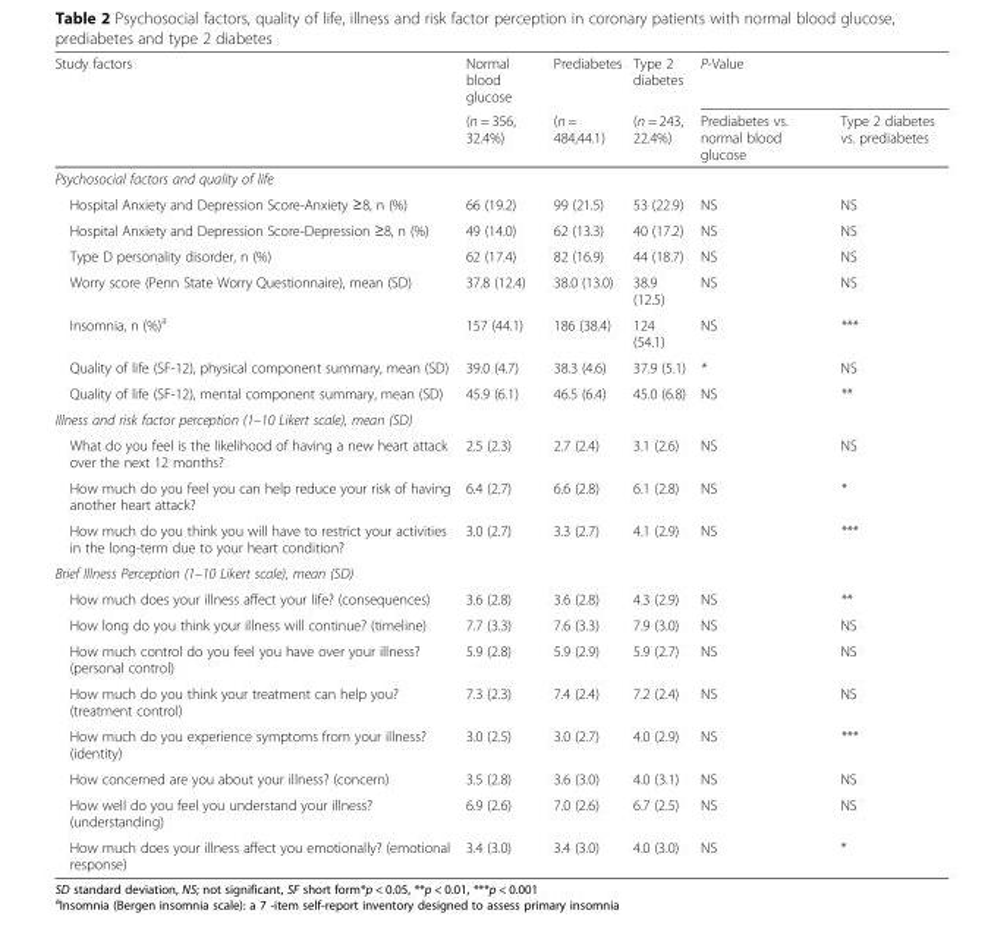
<table><thead><tr><td rowspan="2">Study factors</td><td rowspan="2">Normal blood glucose (n = 356, 32.4%)</td><td rowspan="2">Prediabetes (n = 484,44.1)</td><td rowspan="2">Type 2 diabetes (n = 243, 22.4%)</td><td colspan="2">P-Value</td></tr><tr><td>Prediabetes vs. normal blood glucose</td><td>Type 2 diabetes vs. prediabetes</td></tr></thead><tbody><tr><td colspan="6">Psychosocial factors and quality of life</td></tr><tr><td>Hospital Anxiety and Depression Score-Anxiety ≥8, n (%)</td><td>66 (19.2)</td><td>99 (21.5)</td><td>53 (22.9)</td><td>NS</td><td>NS</td></tr><tr><td>Hospital Anxiety and Depression Score-Depression ≥8, n (%)</td><td>49 (14.0)</td><td>62 (13.3)</td><td>40 (17.2)</td><td>NS</td><td>NS</td></tr><tr><td>Type D personality disorder, n (%)</td><td>62 (17.4)</td><td>82 (16.9)</td><td>44 (18.7)</td><td>NS</td><td>NS</td></tr><tr><td>Worry score (Penn State Worry Questionnaire), mean (SD)</td><td>37.8 (12.4)</td><td>38.0 (13.0)</td><td>38.9 (12.5)</td><td>NS</td><td>NS</td></tr><tr><td>Insomnia, n (%)<sup>a</sup></td><td>157 (44.1)</td><td>186 (38.4)</td><td>124 (54.1)</td><td>NS</td><td>***</td></tr><tr><td>Quality of life (SF-12), physical component summary, mean (SD)</td><td>39.0 (4.7)</td><td>38.3 (4.6)</td><td>37.9 (5.1)</td><td>*</td><td>NS</td></tr><tr><td>Quality of life (SF-12), mental component summary, mean (SD)</td><td>45.9 (6.1)</td><td>46.5 (6.4)</td><td>45.0 (6.8)</td><td>NS</td><td>**</td></tr><tr><td colspan="6">Illness and risk factor perception (1–10 Likert scale), mean (SD)</td></tr><tr><td>What do you feel is the likelihood of having a new heart attack over the next 12 months?</td><td>2.5 (2.3)</td><td>2.7 (2.4)</td><td>3.1 (2.6)</td><td>NS</td><td>NS</td></tr><tr><td>How much do you feel you can help reduce your risk of having another heart attack?</td><td>6.4 (2.7)</td><td>6.6 (2.8)</td><td>6.1 (2.8)</td><td>NS</td><td>*</td></tr><tr><td>How much do you think you will have to restrict your activities in the long-term due to your heart condition?</td><td>3.0 (2.7)</td><td>3.3 (2.7)</td><td>4.1 (2.9)</td><td>NS</td><td>***</td></tr><tr><td colspan="6">Brief Illness Perception (1–10 Likert scale), mean (SD)</td></tr><tr><td>How much does your illness affect your life? (consequences)</td><td>3.6 (2.8)</td><td>3.6 (2.8)</td><td>4.3 (2.9)</td><td>NS</td><td>**</td></tr><tr><td>How long do you think your illness will continue? (timeline)</td><td>7.7 (3.3)</td><td>7.6 (3.3)</td><td>7.9 (3.0)</td><td>NS</td><td>NS</td></tr><tr><td>How much control do you feel you have over your illness? (personal control)</td><td>5.9 (2.8)</td><td>5.9 (2.9)</td><td>5.9 (2.7)</td><td>NS</td><td>NS</td></tr><tr><td>How much do you think your treatment can help you? (treatment control)</td><td>7.3 (2.3)</td><td>7.4 (2.4)</td><td>7.2 (2.4)</td><td>NS</td><td>NS</td></tr><tr><td>How much do you experience symptoms from your illness? (identity)</td><td>3.0 (2.5)</td><td>3.0 (2.7)</td><td>4.0 (2.9)</td><td>NS</td><td>***</td></tr><tr><td>How concerned are you about your illness? (concern)</td><td>3.5 (2.8)</td><td>3.6 (3.0)</td><td>4.0 (3.1)</td><td>NS</td><td>NS</td></tr><tr><td>How well do you feel you understand your illness? (understanding)</td><td>6.9 (2.6)</td><td>7.0 (2.6)</td><td>6.7 (2.5)</td><td>NS</td><td>NS</td></tr><tr><td>How much does your illness affect you emotionally? (emotional response)</td><td>3.4 (3.0)</td><td>3.4 (3.0)</td><td>4.0 (3.0)</td><td>NS</td><td>*</td></tr></tbody></table>